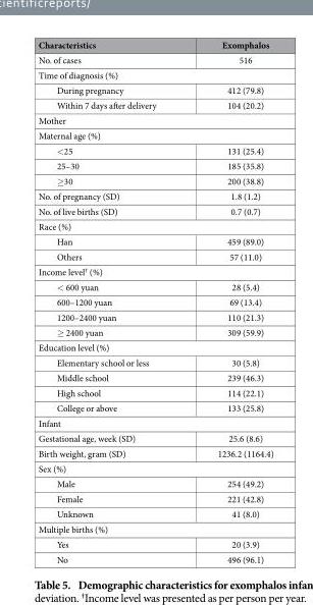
<table><thead><tr><td>Characteristics</td><td>Exomphalos</td></tr></thead><tbody><tr><td>No. of cases</td><td>516</td></tr><tr><td colspan="2">Time of diagnosis (%)</td></tr><tr><td>During pregnancy</td><td>412 (79.8)</td></tr><tr><td>Within 7 days after delivery</td><td>104 (20.2)</td></tr><tr><td colspan="2">Mother</td></tr><tr><td colspan="2">Maternal age (%)</td></tr><tr><td>&lt; 25</td><td>131 (25.4)</td></tr><tr><td>25–30</td><td>185 (35.8)</td></tr><tr><td>≥ 30</td><td>200 (38.8)</td></tr><tr><td>No. of pregnancy (SD)</td><td>1.8 (1.2)</td></tr><tr><td>No. of live births (SD)</td><td>0.7 (0.7)</td></tr><tr><td colspan="2">Race (%)</td></tr><tr><td>Han</td><td>459 (89.0)</td></tr><tr><td>Others</td><td>57 (11.0)</td></tr><tr><td colspan="2">Income level† (%)</td></tr><tr><td>&lt; 600 yuan</td><td>28 (5.4)</td></tr><tr><td>600–1200 yuan</td><td>69 (13.4)</td></tr><tr><td>1200–2400 yuan</td><td>110 (21.3)</td></tr><tr><td>≥ 2400 yuan</td><td>309 (59.9)</td></tr><tr><td colspan="2">Education level (%)</td></tr><tr><td>Elementary school or less</td><td>30 (5.8)</td></tr><tr><td>Middle school</td><td>239 (46.3)</td></tr><tr><td>High school</td><td>114 (22.1)</td></tr><tr><td>College or above</td><td>133 (25.8)</td></tr><tr><td colspan="2">Infant</td></tr><tr><td>Gestational age, week (SD)</td><td>25.6 (8.6)</td></tr><tr><td>Birth weight, gram (SD)</td><td>1236.2 (1164.4)</td></tr><tr><td colspan="2">Sex (%)</td></tr><tr><td>Male</td><td>254 (49.2)</td></tr><tr><td>Female</td><td>221 (42.8)</td></tr><tr><td>Unknown</td><td>41 (8.0)</td></tr><tr><td colspan="2">Multiple births (%)</td></tr><tr><td>Yes</td><td>20 (3.9)</td></tr><tr><td>No</td><td>496 (96.1)</td></tr></tbody></table>